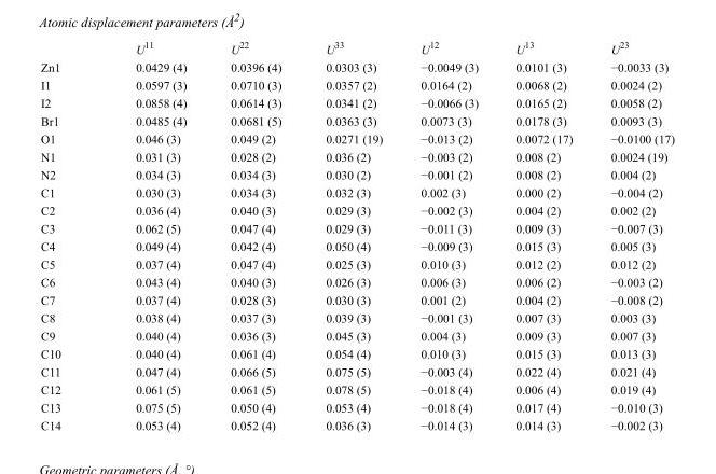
<table><thead><tr><td></td><td>U<sup>11</sup></td><td>U<sup>22</sup></td><td>U<sup>33</sup></td><td>U<sup>12</sup></td><td>U<sup>13</sup></td><td>U<sup>23</sup></td></tr></thead><tbody><tr><td>Zn1</td><td>0.0429 (4)</td><td>0.0396 (4)</td><td>0.0303 (3)</td><td>−0.0049 (3)</td><td>0.0101 (3)</td><td>−0.0033 (3)</td></tr><tr><td>I1</td><td>0.0597 (3)</td><td>0.0710 (3)</td><td>0.0357 (2)</td><td>0.0164 (2)</td><td>0.0068 (2)</td><td>0.0024 (2)</td></tr><tr><td>I2</td><td>0.0858 (4)</td><td>0.0614 (3)</td><td>0.0341 (2)</td><td>−0.0066 (3)</td><td>0.0165 (2)</td><td>0.0058 (2)</td></tr><tr><td>Br1</td><td>0.0485 (4)</td><td>0.0681 (5)</td><td>0.0363 (3)</td><td>0.0073 (3)</td><td>0.0178 (3)</td><td>0.0093 (3)</td></tr><tr><td>O1</td><td>0.046 (3)</td><td>0.049 (2)</td><td>0.0271 (19)</td><td>−0.013 (2)</td><td>0.0072 (17)</td><td>−0.0100 (17)</td></tr><tr><td>N1</td><td>0.031 (3)</td><td>0.028 (2)</td><td>0.036 (2)</td><td>−0.003 (2)</td><td>0.008 (2)</td><td>0.0024 (19)</td></tr><tr><td>N2</td><td>0.034 (3)</td><td>0.034 (3)</td><td>0.030 (2)</td><td>−0.001 (2)</td><td>0.008 (2)</td><td>0.004 (2)</td></tr><tr><td>C1</td><td>0.030 (3)</td><td>0.034 (3)</td><td>0.032 (3)</td><td>0.002 (3)</td><td>0.000 (2)</td><td>−0.004 (2)</td></tr><tr><td>C2</td><td>0.036 (4)</td><td>0.040 (3)</td><td>0.029 (3)</td><td>−0.002 (3)</td><td>0.004 (2)</td><td>0.002 (2)</td></tr><tr><td>C3</td><td>0.062 (5)</td><td>0.047 (4)</td><td>0.029 (3)</td><td>−0.011 (3)</td><td>0.009 (3)</td><td>−0.007 (3)</td></tr><tr><td>C4</td><td>0.049 (4)</td><td>0.042 (4)</td><td>0.050 (4)</td><td>−0.009 (3)</td><td>0.015 (3)</td><td>0.005 (3)</td></tr><tr><td>C5</td><td>0.037 (4)</td><td>0.047 (4)</td><td>0.025 (3)</td><td>0.010 (3)</td><td>0.012 (2)</td><td>0.012 (2)</td></tr><tr><td>C6</td><td>0.043 (4)</td><td>0.040 (3)</td><td>0.026 (3)</td><td>0.006 (3)</td><td>0.006 (2)</td><td>−0.003 (2)</td></tr><tr><td>C7</td><td>0.037 (4)</td><td>0.028 (3)</td><td>0.030 (3)</td><td>0.001 (2)</td><td>0.004 (2)</td><td>−0.008 (2)</td></tr><tr><td>C8</td><td>0.038 (4)</td><td>0.037 (3)</td><td>0.039 (3)</td><td>−0.001 (3)</td><td>0.007 (3)</td><td>0.003 (3)</td></tr><tr><td>C9</td><td>0.040 (4)</td><td>0.036 (3)</td><td>0.045 (3)</td><td>0.004 (3)</td><td>0.009 (3)</td><td>0.007 (3)</td></tr><tr><td>C10</td><td>0.040 (4)</td><td>0.061 (4)</td><td>0.054 (4)</td><td>0.010 (3)</td><td>0.015 (3)</td><td>0.013 (3)</td></tr><tr><td>C11</td><td>0.047 (4)</td><td>0.066 (5)</td><td>0.075 (5)</td><td>−0.003 (4)</td><td>0.022 (4)</td><td>0.021 (4)</td></tr><tr><td>C12</td><td>0.061 (5)</td><td>0.061 (5)</td><td>0.078 (5)</td><td>−0.018 (4)</td><td>0.006 (4)</td><td>0.019 (4)</td></tr><tr><td>C13</td><td>0.075 (5)</td><td>0.050 (4)</td><td>0.053 (4)</td><td>−0.018 (4)</td><td>0.017 (4)</td><td>−0.010 (3)</td></tr><tr><td>C14</td><td>0.053 (4)</td><td>0.052 (4)</td><td>0.036 (3)</td><td>−0.014 (3)</td><td>0.014 (3)</td><td>−0.002 (3)</td></tr></tbody></table>